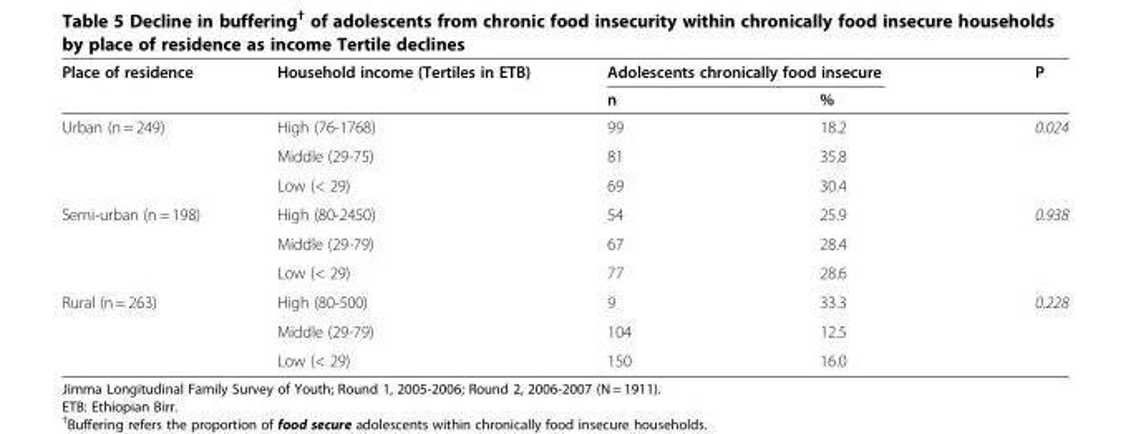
<table><thead><tr><td rowspan="2">Place of residence</td><td rowspan="2">Household income (Tertiles in ETB)</td><td colspan="2">Adolescents chronically food insecure</td><td rowspan="2">P</td></tr><tr><td>n</td><td>%</td></tr></thead><tbody><tr><td rowspan="3">Urban (n = 249)</td><td>High (76-1768)</td><td>99</td><td>18.2</td><td>0.024</td></tr><tr><td>Middle (29-75)</td><td>81</td><td>35.8</td><td></td></tr><tr><td>Low (&lt; 29)</td><td>69</td><td>30.4</td><td></td></tr><tr><td rowspan="3">Semi-urban (n = 198)</td><td>High (80-2450)</td><td>54</td><td>25.9</td><td>0.938</td></tr><tr><td>Middle (29-79)</td><td>67</td><td>28.4</td><td></td></tr><tr><td>Low (&lt; 29)</td><td>77</td><td>28.6</td><td></td></tr><tr><td rowspan="3">Rural (n = 263)</td><td>High (80-500)</td><td>9</td><td>33.3</td><td>0.228</td></tr><tr><td>Middle (29-79)</td><td>104</td><td>12.5</td><td></td></tr><tr><td>Low (&lt; 29)</td><td>150</td><td>16.0</td><td></td></tr></tbody></table>